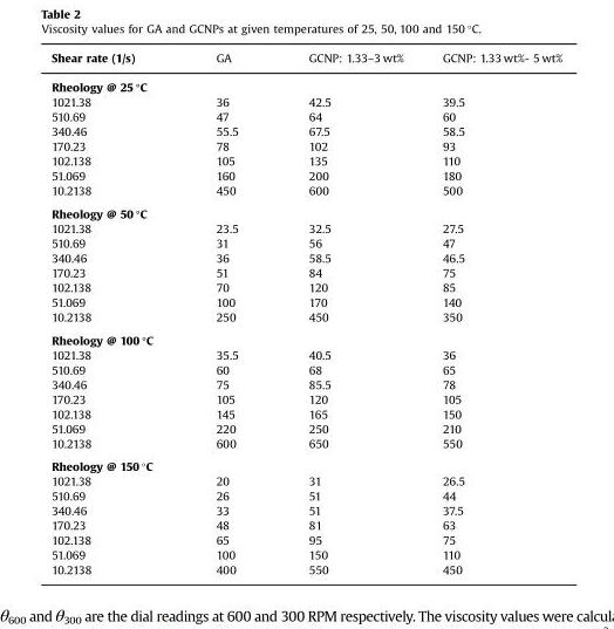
<table><thead><tr><td>Shear rate (1/s)</td><td>GA</td><td>GCNP: 1.33–3 wt%</td><td>GCNP: 1.33 wt%- 5 wt%</td></tr></thead><tbody><tr><td colspan="4">Rheology @ 25 °C</td></tr><tr><td>1021.38</td><td>36</td><td>42.5</td><td>39.5</td></tr><tr><td>510.69</td><td>47</td><td>64</td><td>60</td></tr><tr><td>340.46</td><td>55.5</td><td>67.5</td><td>58.5</td></tr><tr><td>170.23</td><td>78</td><td>102</td><td>93</td></tr><tr><td>102.138</td><td>105</td><td>135</td><td>110</td></tr><tr><td>51.069</td><td>160</td><td>200</td><td>180</td></tr><tr><td>10.2138</td><td>450</td><td>600</td><td>500</td></tr><tr><td colspan="4">Rheology @ 50 °C</td></tr><tr><td>1021.38</td><td>23.5</td><td>32.5</td><td>27.5</td></tr><tr><td>510.69</td><td>31</td><td>56</td><td>47</td></tr><tr><td>340.46</td><td>36</td><td>58.5</td><td>46.5</td></tr><tr><td>170.23</td><td>51</td><td>84</td><td>75</td></tr><tr><td>102.138</td><td>70</td><td>120</td><td>85</td></tr><tr><td>51.069</td><td>100</td><td>170</td><td>140</td></tr><tr><td>10.2138</td><td>250</td><td>450</td><td>350</td></tr><tr><td colspan="4">Rheology @ 100 °C</td></tr><tr><td>1021.38</td><td>35.5</td><td>40.5</td><td>36</td></tr><tr><td>510.69</td><td>60</td><td>68</td><td>65</td></tr><tr><td>340.46</td><td>75</td><td>85.5</td><td>78</td></tr><tr><td>170.23</td><td>105</td><td>120</td><td>105</td></tr><tr><td>102.138</td><td>145</td><td>165</td><td>150</td></tr><tr><td>51.069</td><td>220</td><td>250</td><td>210</td></tr><tr><td>10.2138</td><td>600</td><td>650</td><td>550</td></tr><tr><td colspan="4">Rheology @ 150 °C</td></tr><tr><td>1021.38</td><td>20</td><td>31</td><td>26.5</td></tr><tr><td>510.69</td><td>26</td><td>51</td><td>44</td></tr><tr><td>340.46</td><td>33</td><td>51</td><td>37.5</td></tr><tr><td>170.23</td><td>48</td><td>81</td><td>63</td></tr><tr><td>102.138</td><td>65</td><td>95</td><td>75</td></tr><tr><td>51.069</td><td>100</td><td>150</td><td>110</td></tr><tr><td>10.2138</td><td>400</td><td>550</td><td>450</td></tr></tbody></table>